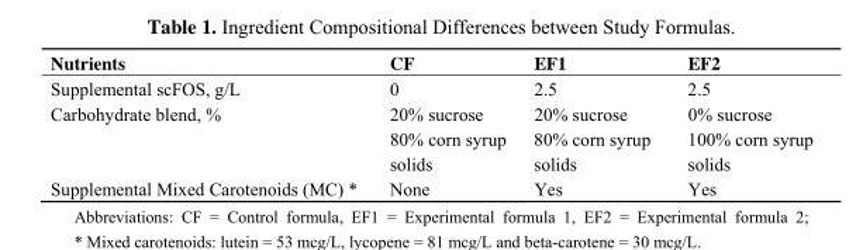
<table><thead><tr><td>Nutrients</td><td>CF</td><td>EF1</td><td>EF2</td></tr></thead><tbody><tr><td>Supplemental scFOS, g/L</td><td>0</td><td>2.5</td><td>2.5</td></tr><tr><td rowspan="2">Carbohydrate blend, %</td><td>20% sucrose</td><td>20% sucrose</td><td>0% sucrose</td></tr><tr><td>80% corn syrup solids</td><td>80% corn syrup solids</td><td>100% corn syrup solids</td></tr><tr><td>Supplemental Mixed Carotenoids (MC) *</td><td>None</td><td>Yes</td><td>Yes</td></tr></tbody></table>